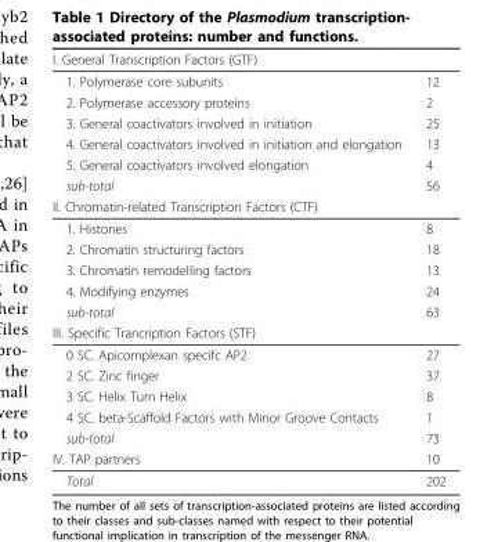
<table><thead><tr><td rowspan="7">I. General Transcription Factors (GTF) 1. Polymerase core subunits 2. Polymerase accessory proteins 3. General coactivators involved in initiation 4. General coactivators involved in initiation and elongation 5. General coactivators involved elongation sub-total</td><td rowspan="7">12 2 25 13 4 56</td></tr><tr></tr><tr></tr><tr></tr><tr></tr><tr></tr><tr></tr></thead><tbody><tr><td colspan="2">II. Chromatin-related Transcription Factors (CTF)</td></tr><tr><td>1. Histones</td><td>8</td></tr><tr><td>2. Chromatin structuring factors</td><td>18</td></tr><tr><td>3. Chromatin remodelling factors</td><td>13</td></tr><tr><td>4. Modifying enzymes</td><td>24</td></tr><tr><td>sub-total</td><td>63</td></tr><tr><td colspan="2">III. Specific Trancription Factors (STF)</td></tr><tr><td>0 SC. Apicomplexan specifc AP2</td><td>27</td></tr><tr><td>2 SC. Zinc finger</td><td>37</td></tr><tr><td>3 SC. Helix Turn Helix</td><td>8</td></tr><tr><td>4 SC. beta-Scaffold Factors with Minor Groove Contacts</td><td>1</td></tr><tr><td>sub-total</td><td>73</td></tr><tr><td>IV. TAP partners</td><td>10</td></tr><tr><td>Total</td><td>202</td></tr></tbody></table>